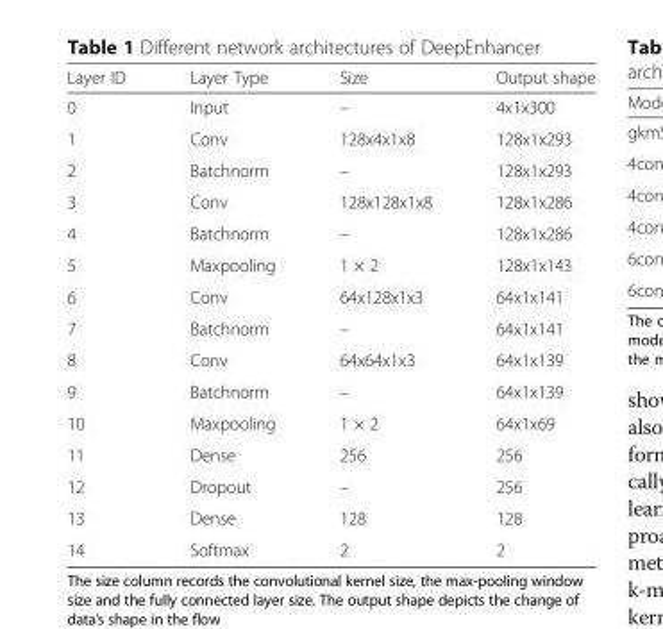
<table><thead><tr><td>Layer ID</td><td>Layer Type</td><td>Size</td><td>Output shape</td></tr></thead><tbody><tr><td>0</td><td>Input</td><td>–</td><td>4x1x300</td></tr><tr><td>1</td><td>Conv</td><td>128x4x1x8</td><td>128x1x293</td></tr><tr><td>2</td><td>Batchnorm</td><td>–</td><td>128x1x293</td></tr><tr><td>3</td><td>Conv</td><td>128x128x1x8</td><td>128x1x286</td></tr><tr><td>4</td><td>Batchnorm</td><td>–</td><td>128x1x286</td></tr><tr><td>5</td><td>Maxpooling</td><td>1 × 2</td><td>128x1x143</td></tr><tr><td>6</td><td>Conv</td><td>64x128x1x3</td><td>64x1x141</td></tr><tr><td>7</td><td>Batchnorm</td><td>–</td><td>64x1x141</td></tr><tr><td>8</td><td>Conv</td><td>64x64x1x3</td><td>64x1x139</td></tr><tr><td>9</td><td>Batchnorm</td><td>–</td><td>64x1x139</td></tr><tr><td>10</td><td>Maxpooling</td><td>1 × 2</td><td>64x1x69</td></tr><tr><td>11</td><td>Dense</td><td>256</td><td>256</td></tr><tr><td>12</td><td>Dropout</td><td>–</td><td>256</td></tr><tr><td>13</td><td>Dense</td><td>128</td><td>128</td></tr><tr><td>14</td><td>Softmax</td><td>2</td><td>2</td></tr></tbody></table>